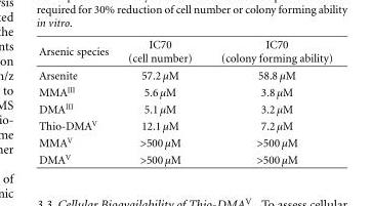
<table><thead><tr><td>Arsenic species</td><td>IC70 (cell number)</td><td>IC70 (colony forming ability)</td></tr></thead><tbody><tr><td>Arsenite</td><td>57.2 μM</td><td>58.8 μM</td></tr><tr><td>MMA<sup>III</sup></td><td>5.6 μM</td><td>3.8 μM</td></tr><tr><td>DMA<sup>III</sup></td><td>5.1 μM</td><td>3.2 μM</td></tr><tr><td>Thio-DMA<sup>V</sup></td><td>12.1 μM</td><td>7.2 μM</td></tr><tr><td>MMA<sup>V</sup></td><td>&gt;500 μM</td><td>&gt;500 μM</td></tr><tr><td>DMA<sup>V</sup></td><td>&gt;500 μM</td><td>&gt;500 μM</td></tr></tbody></table>